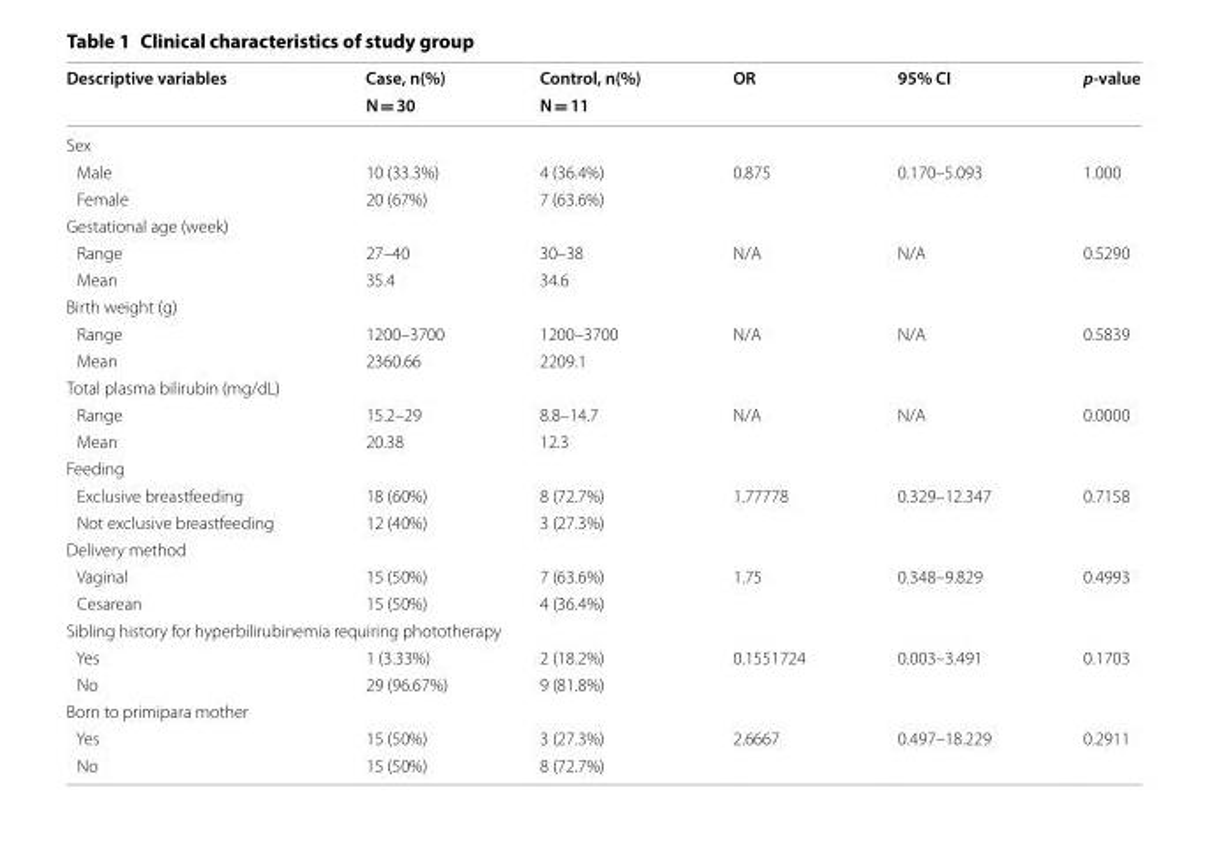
<table><thead><tr><td rowspan="2">Descriptive variables</td><td rowspan="2">Case, n(%) N = 30</td><td rowspan="2">Control, n(%) N = 11</td><td rowspan="2">OR</td><td rowspan="2">95% CI</td><td rowspan="2">p-value</td></tr><tr></tr></thead><tbody><tr><td colspan="6">Sex</td></tr><tr><td>Male</td><td>10 (33.3%)</td><td>4 (36.4%)</td><td>0.875</td><td>0.170–5.093</td><td>1.000</td></tr><tr><td>Female</td><td>20 (67%)</td><td>7 (63.6%)</td><td></td><td></td><td></td></tr><tr><td colspan="6">Gestational age (week)</td></tr><tr><td>Range</td><td>27–40</td><td>30–38</td><td>N/A</td><td>N/A</td><td>0.5290</td></tr><tr><td>Mean</td><td>35.4</td><td>34.6</td><td></td><td></td><td></td></tr><tr><td colspan="6">Birth weight (g)</td></tr><tr><td>Range</td><td>1200–3700</td><td>1200–3700</td><td>N/A</td><td>N/A</td><td>0.5839</td></tr><tr><td>Mean</td><td>2360.66</td><td>2209.1</td><td></td><td></td><td></td></tr><tr><td colspan="6">Total plasma bilirubin (mg/dL)</td></tr><tr><td>Range</td><td>15.2–29</td><td>8.8–14.7</td><td>N/A</td><td>N/A</td><td>0.0000</td></tr><tr><td>Mean</td><td>20.38</td><td>12.3</td><td></td><td></td><td></td></tr><tr><td colspan="6">Feeding</td></tr><tr><td>Exclusive breastfeeding</td><td>18 (60%)</td><td>8 (72.7%)</td><td>1.77778</td><td>0.329–12.347</td><td>0.7158</td></tr><tr><td>Not exclusive breastfeeding</td><td>12 (40%)</td><td>3 (27.3%)</td><td></td><td></td><td></td></tr><tr><td colspan="6">Delivery method</td></tr><tr><td>Vaginal</td><td>15 (50%)</td><td>7 (63.6%)</td><td>1.75</td><td>0.348–9.829</td><td>0.4993</td></tr><tr><td>Cesarean</td><td>15 (50%)</td><td>4 (36.4%)</td><td></td><td></td><td></td></tr><tr><td colspan="6">Sibling history for hyperbilirubinemia requiring phototherapy</td></tr><tr><td>Yes</td><td>1 (3.33%)</td><td>2 (18.2%)</td><td>0.1551724</td><td>0.003–3.491</td><td>0.1703</td></tr><tr><td>No</td><td>29 (96.67%)</td><td>9 (81.8%)</td><td></td><td></td><td></td></tr><tr><td colspan="6">Born to primipara mother</td></tr><tr><td>Yes</td><td>15 (50%)</td><td>3 (27.3%)</td><td>2.6667</td><td>0.497–18.229</td><td>0.2911</td></tr><tr><td>No</td><td>15 (50%)</td><td>8 (72.7%)</td><td></td><td></td><td></td></tr></tbody></table>